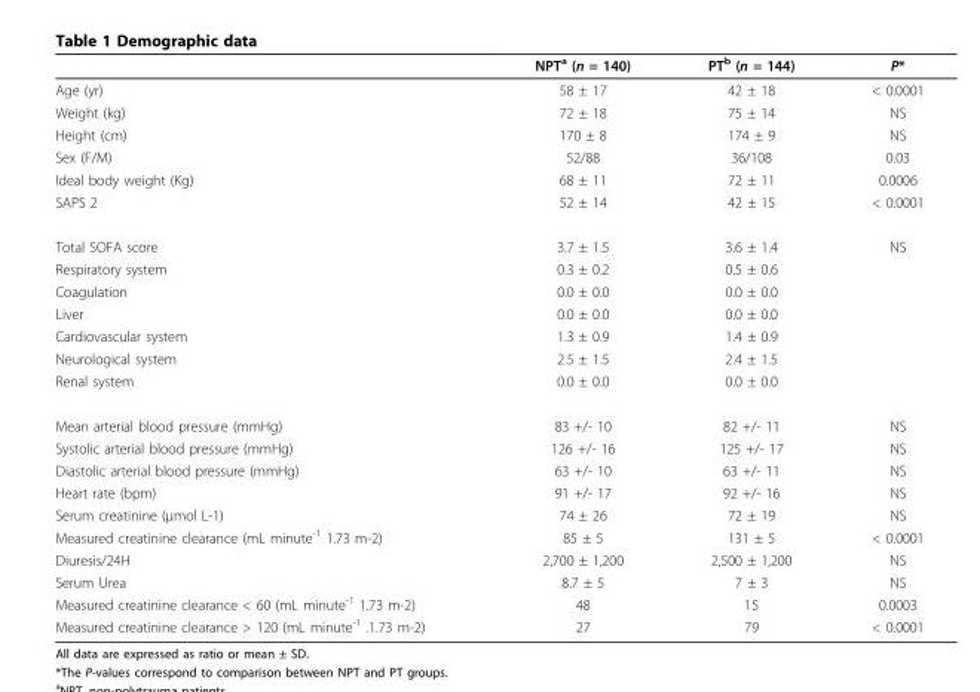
<table><thead><tr><td></td><td>NPT<sup>a</sup> (n = 140)</td><td>PT<sup>b</sup> (n = 144)</td><td>P*</td></tr></thead><tbody><tr><td>Age (yr)</td><td>58 ± 17</td><td>42 ± 18</td><td>&lt; 0.0001</td></tr><tr><td>Weight (kg)</td><td>72 ± 18</td><td>75 ± 14</td><td>NS</td></tr><tr><td>Height (cm)</td><td>170 ± 8</td><td>174 ± 9</td><td>NS</td></tr><tr><td>Sex (F/M)</td><td>52/88</td><td>36/108</td><td>0.03</td></tr><tr><td>Ideal body weight (Kg)</td><td>68 ± 11</td><td>72 ± 11</td><td>0.0006</td></tr><tr><td>SAPS 2</td><td>52 ± 14</td><td>42 ± 15</td><td>&lt; 0.0001</td></tr><tr><td>Total SOFA score</td><td>3.7 ± 1.5</td><td>3.6 ± 1.4</td><td>NS</td></tr><tr><td>Respiratory system</td><td>0.3 ± 0.2</td><td>0.5 ± 0.6</td><td></td></tr><tr><td>Coagulation</td><td>0.0 ± 0.0</td><td>0.0 ± 0.0</td><td></td></tr><tr><td>Liver</td><td>0.0 ± 0.0</td><td>0.0 ± 0.0</td><td></td></tr><tr><td>Cardiovascular system</td><td>1.3 ± 0.9</td><td>1.4 ± 0.9</td><td></td></tr><tr><td>Neurological system</td><td>2.5 ± 1.5</td><td>2.4 ± 1.5</td><td></td></tr><tr><td>Renal system</td><td>0.0 ± 0.0</td><td>0.0 ± 0.0</td><td></td></tr><tr><td>Mean arterial blood pressure (mmHg)</td><td>83 +/- 10</td><td>82 +/- 11</td><td>NS</td></tr><tr><td>Systolic arterial blood pressure (mmHg)</td><td>126 +/- 16</td><td>125 +/- 17</td><td>NS</td></tr><tr><td>Diastolic arterial blood pressure (mmHg)</td><td>63 +/- 10</td><td>63 +/- 11</td><td>NS</td></tr><tr><td>Heart rate (bpm)</td><td>91 +/- 17</td><td>92 +/- 16</td><td>NS</td></tr><tr><td>Serum creatinine (μmol L-1)</td><td>74 ± 26</td><td>72 ± 19</td><td>NS</td></tr><tr><td>Measured creatinine clearance (mL minute<sup>-1</sup> 1.73 m-2)</td><td>85 ± 5</td><td>131 ± 5</td><td>&lt; 0.0001</td></tr><tr><td>Diuresis/24H</td><td>2,700 ± 1,200</td><td>2,500 ± 1,200</td><td>NS</td></tr><tr><td>Serum Urea</td><td>8.7 ± 5</td><td>7 ± 3</td><td>NS</td></tr><tr><td>Measured creatinine clearance &lt; 60 (mL minute<sup>-1</sup> 1.73 m-2)</td><td>48</td><td>15</td><td>0.0003</td></tr><tr><td>Measured creatinine clearance &gt; 120 (mL minute<sup>-1</sup> .1.73 m-2)</td><td>27</td><td>79</td><td>&lt; 0.0001</td></tr></tbody></table>